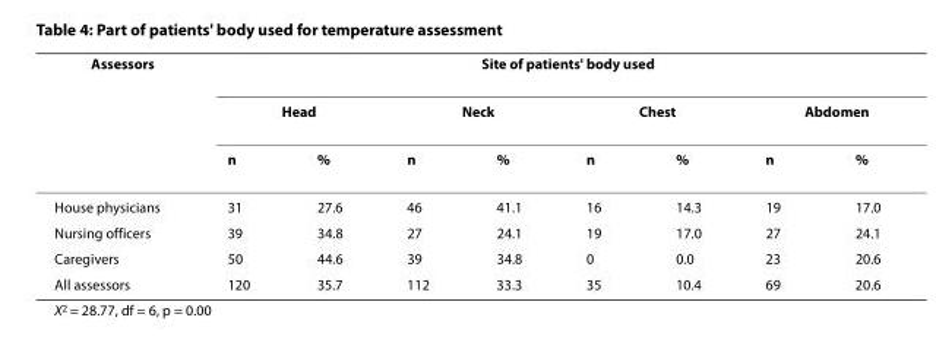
<table><thead><tr><td rowspan="3">Assessors</td><td colspan="8">Site of patients&#x27; body used</td></tr><tr><td colspan="2">Head</td><td colspan="2">Neck</td><td colspan="2">Chest</td><td colspan="2">Abdomen</td></tr><tr><td>n</td><td>%</td><td>n</td><td>%</td><td>n</td><td>%</td><td>n</td><td>%</td></tr></thead><tbody><tr><td>House physicians</td><td>31</td><td>27.6</td><td>46</td><td>41.1</td><td>16</td><td>14.3</td><td>19</td><td>17.0</td></tr><tr><td>Nursing officers</td><td>39</td><td>34.8</td><td>27</td><td>24.1</td><td>19</td><td>17.0</td><td>27</td><td>24.1</td></tr><tr><td>Caregivers</td><td>50</td><td>44.6</td><td>39</td><td>34.8</td><td>0</td><td>0.0</td><td>23</td><td>20.6</td></tr><tr><td>All assessors</td><td>120</td><td>35.7</td><td>112</td><td>33.3</td><td>35</td><td>10.4</td><td>69</td><td>20.6</td></tr></tbody></table>